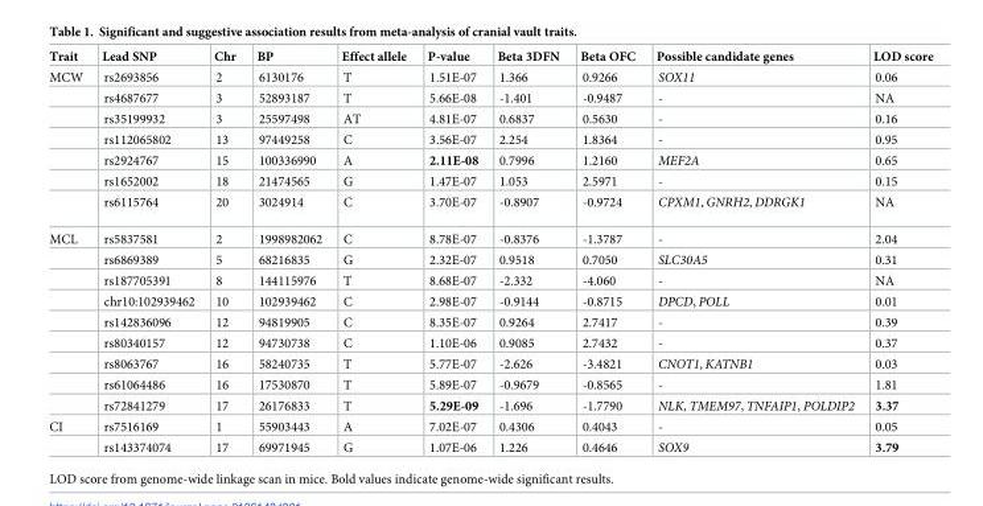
<table><thead><tr><td>Trait</td><td>Lead SNP</td><td>Chr</td><td>BP</td><td>Effect allele</td><td>P-value</td><td>Beta 3DFN</td><td>Beta OFC</td><td>Possible candidate genes</td><td>LOD score</td></tr></thead><tbody><tr><td rowspan="7">MCW</td><td>rs2693856</td><td>2</td><td>6130176</td><td>T</td><td>1.51E-07</td><td>1.366</td><td>0.9266</td><td>SOX11</td><td>0.06</td></tr><tr><td>rs4687677</td><td>3</td><td>52893187</td><td>T</td><td>5.66E-08</td><td>-1.401</td><td>-0.9487</td><td>-</td><td>NA</td></tr><tr><td>rs35199932</td><td>3</td><td>25597498</td><td>AT</td><td>4.81E-07</td><td>0.6837</td><td>0.5630</td><td>-</td><td>0.16</td></tr><tr><td>rs112065802</td><td>13</td><td>97449258</td><td>C</td><td>3.56E-07</td><td>2.254</td><td>1.8364</td><td>-</td><td>0.95</td></tr><tr><td>rs2924767</td><td>15</td><td>100336990</td><td>A</td><td>2.11E-08</td><td>0.7996</td><td>1.2160</td><td>MEF2A</td><td>0.65</td></tr><tr><td>rs1652002</td><td>18</td><td>21474565</td><td>G</td><td>1.47E-07</td><td>1.053</td><td>2.5971</td><td>-</td><td>0.15</td></tr><tr><td>rs6115764</td><td>20</td><td>3024914</td><td>C</td><td>3.70E-07</td><td>-0.8907</td><td>-0.9724</td><td>CPXM1, GNRH2, DDRGK1</td><td>NA</td></tr><tr><td rowspan="9">MCL</td><td>rs5837581</td><td>2</td><td>1998982062</td><td>C</td><td>8.78E-07</td><td>-0.8376</td><td>-1.3787</td><td>-</td><td>2.04</td></tr><tr><td>rs6869389</td><td>5</td><td>68216835</td><td>G</td><td>2.32E-07</td><td>0.9518</td><td>0.7050</td><td>SLC30A5</td><td>0.31</td></tr><tr><td>rs187705391</td><td>8</td><td>144115976</td><td>T</td><td>8.68E-07</td><td>-2.332</td><td>-4.060</td><td>-</td><td>NA</td></tr><tr><td>chr10:102939462</td><td>10</td><td>102939462</td><td>C</td><td>2.98E-07</td><td>-0.9144</td><td>-0.8715</td><td>DPCD, POLL</td><td>0.01</td></tr><tr><td>rs142836096</td><td>12</td><td>94819905</td><td>C</td><td>8.35E-07</td><td>0.9264</td><td>2.7417</td><td>-</td><td>0.39</td></tr><tr><td>rs80340157</td><td>12</td><td>94730738</td><td>C</td><td>1.10E-06</td><td>0.9085</td><td>2.7432</td><td>-</td><td>0.37</td></tr><tr><td>rs8063767</td><td>16</td><td>58240735</td><td>T</td><td>5.77E-07</td><td>-2.626</td><td>-3.4821</td><td>CNOT1, KATNB1</td><td>0.03</td></tr><tr><td>rs61064486</td><td>16</td><td>17530870</td><td>T</td><td>5.89E-07</td><td>-0.9679</td><td>-0.8565</td><td>-</td><td>1.81</td></tr><tr><td>rs72841279</td><td>17</td><td>26176833</td><td>T</td><td>5.29E-09</td><td>-1.696</td><td>-1.7790</td><td>NLK, TMEM97, TNFAIP1, POLDIP2</td><td>3.37</td></tr><tr><td rowspan="2">CI</td><td>rs7516169</td><td>1</td><td>55903443</td><td>A</td><td>7.02E-07</td><td>0.4306</td><td>0.4043</td><td>-</td><td>0.05</td></tr><tr><td>rs143374074</td><td>17</td><td>69971945</td><td>G</td><td>1.07E-06</td><td>1.226</td><td>0.4646</td><td>SOX9</td><td>3.79</td></tr></tbody></table>